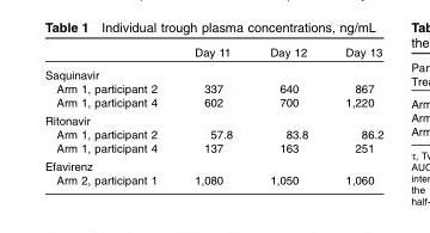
<table><thead><tr><td></td><td>Day 11</td><td>Day 12</td><td>Day 13</td></tr></thead><tbody><tr><td colspan="4">Saquinavir</td></tr><tr><td>Arm 1, participant 2</td><td>337</td><td>640</td><td>867</td></tr><tr><td>Arm 1, participant 4</td><td>602</td><td>700</td><td>1,220</td></tr><tr><td colspan="4">Ritonavir</td></tr><tr><td>Arm 1, participant 2</td><td>57.8</td><td>83.8</td><td>86.2</td></tr><tr><td>Arm 1, participant 4</td><td>137</td><td>163</td><td>251</td></tr><tr><td colspan="4">Efavirenz</td></tr><tr><td>Arm 2, participant 1</td><td>1,080</td><td>1,050</td><td>1,060</td></tr></tbody></table>